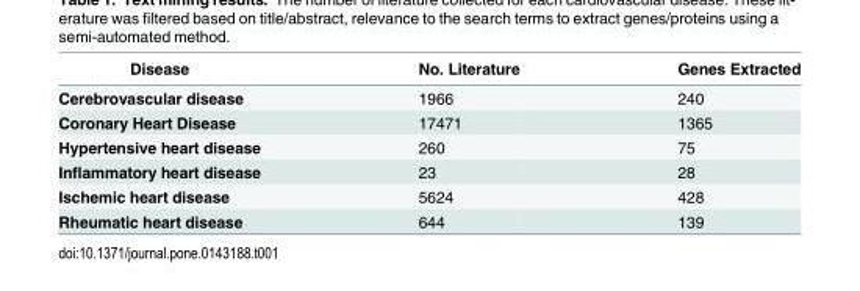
<table><thead><tr><td>Disease</td><td>No. Literature</td><td>Genes Extracted</td></tr></thead><tbody><tr><td>Cerebrovascular disease</td><td>1966</td><td>240</td></tr><tr><td>Coronary Heart Disease</td><td>17471</td><td>1365</td></tr><tr><td>Hypertensive heart disease</td><td>260</td><td>75</td></tr><tr><td>Inflammatory heart disease</td><td>23</td><td>28</td></tr><tr><td>Ischemic heart disease</td><td>5624</td><td>428</td></tr><tr><td>Rheumatic heart disease</td><td>644</td><td>139</td></tr></tbody></table>